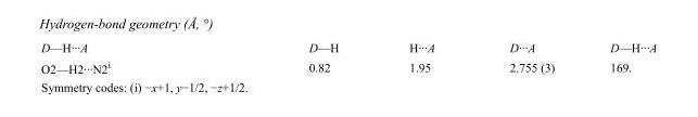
<table><tbody><tr><td>D—H···A</td><td>D—H</td><td>H···A</td><td>D···A</td><td>D—H···A</td></tr><tr><td>O2—H2···N2<sup>i</sup></td><td>0.82</td><td>1.95</td><td>2.755 (3)</td><td>169.</td></tr></tbody></table>